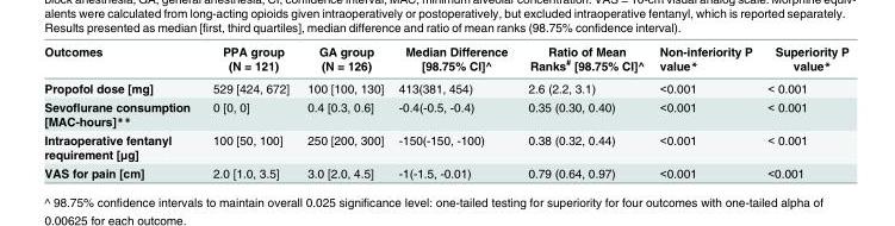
<table><thead><tr><td>Outcomes</td><td>PPA group (N = 121)</td><td>GA group (N = 126)</td><td>Median Difference [98.75% CI]^</td><td>Ratio of Mean Ranks<sup>#</sup> [98.75% CI]^</td><td>Non-inferiority P value*</td><td>Superiority P value*</td></tr></thead><tbody><tr><td>Propofol dose [mg]</td><td>529 [424, 672]</td><td>100 [100, 130]</td><td>413(381, 454)</td><td>2.6 (2.2, 3.1)</td><td>&lt;0.001</td><td>&lt; 0.001</td></tr><tr><td>Sevoflurane consumption [MAC-hours]**</td><td>0 [0, 0]</td><td>0.4 [0.3, 0.6]</td><td>-0.4(-0.5, -0.4)</td><td>0.35 (0.30, 0.40)</td><td>&lt;0.001</td><td>&lt; 0.001</td></tr><tr><td>Intraoperative fentanyl requirement [μg]</td><td>100 [50, 100]</td><td>250 [200, 300]</td><td>-150(-150, -100)</td><td>0.38 (0.32, 0.44)</td><td>&lt;0.001</td><td>&lt; 0.001</td></tr><tr><td>VAS for pain [cm]</td><td>2.0 [1.0, 3.5]</td><td>3.0 [2.0, 4.5]</td><td>-1(-1.5, -0.01)</td><td>0.79 (0.64, 0.97)</td><td>&lt;0.001</td><td>&lt;0.001</td></tr></tbody></table>